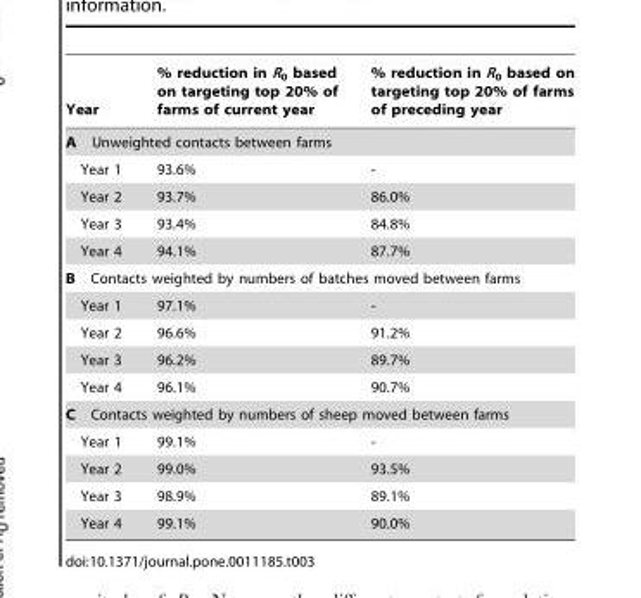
<table><thead><tr><td>Year</td><td>% reduction in R<sub>0</sub> based on targeting top 20% of farms of current year</td><td>% reduction in R<sub>0</sub> based on targeting top 20% of farms of preceding year</td></tr></thead><tbody><tr><td colspan="3">A Unweighted contacts between farms</td></tr><tr><td>Year 1</td><td>93.6%</td><td>-</td></tr><tr><td>Year 2</td><td>93.7%</td><td>86.0%</td></tr><tr><td>Year 3</td><td>93.4%</td><td>84.8%</td></tr><tr><td>Year 4</td><td>94.1%</td><td>87.7%</td></tr><tr><td colspan="3">B Contacts weighted by numbers of batches moved between farms</td></tr><tr><td>Year 1</td><td>97.1%</td><td>-</td></tr><tr><td>Year 2</td><td>96.6%</td><td>91.2%</td></tr><tr><td>Year 3</td><td>96.2%</td><td>89.7%</td></tr><tr><td>Year 4</td><td>96.1%</td><td>90.7%</td></tr><tr><td colspan="3">C Contacts weighted by numbers of sheep moved between farms</td></tr><tr><td>Year 1</td><td>99.1%</td><td>-</td></tr><tr><td>Year 2</td><td>99.0%</td><td>93.5%</td></tr><tr><td>Year 3</td><td>98.9%</td><td>89.1%</td></tr><tr><td>Year 4</td><td>99.1%</td><td>90.0%</td></tr></tbody></table>